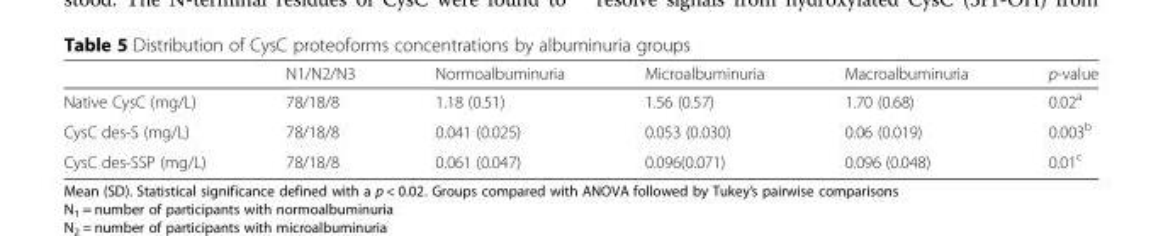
<table><thead><tr><td></td><td>N1/N2/N3</td><td>Normoalbuminuria</td><td>Microalbuminuria</td><td>Macroalbuminuria</td><td>p-value</td></tr></thead><tbody><tr><td>Native CysC (mg/L)</td><td>78/18/8</td><td>1.18 (0.51)</td><td>1.56 (0.57)</td><td>1.70 (0.68)</td><td>0.02<sup>a</sup></td></tr><tr><td>CysC des-S (mg/L)</td><td>78/18/8</td><td>0.041 (0.025)</td><td>0.053 (0.030)</td><td>0.06 (0.019)</td><td>0.003<sup>b</sup></td></tr><tr><td>CysC des-SSP (mg/L)</td><td>78/18/8</td><td>0.061 (0.047)</td><td>0.096(0.071)</td><td>0.096 (0.048)</td><td>0.01<sup>c</sup></td></tr></tbody></table>